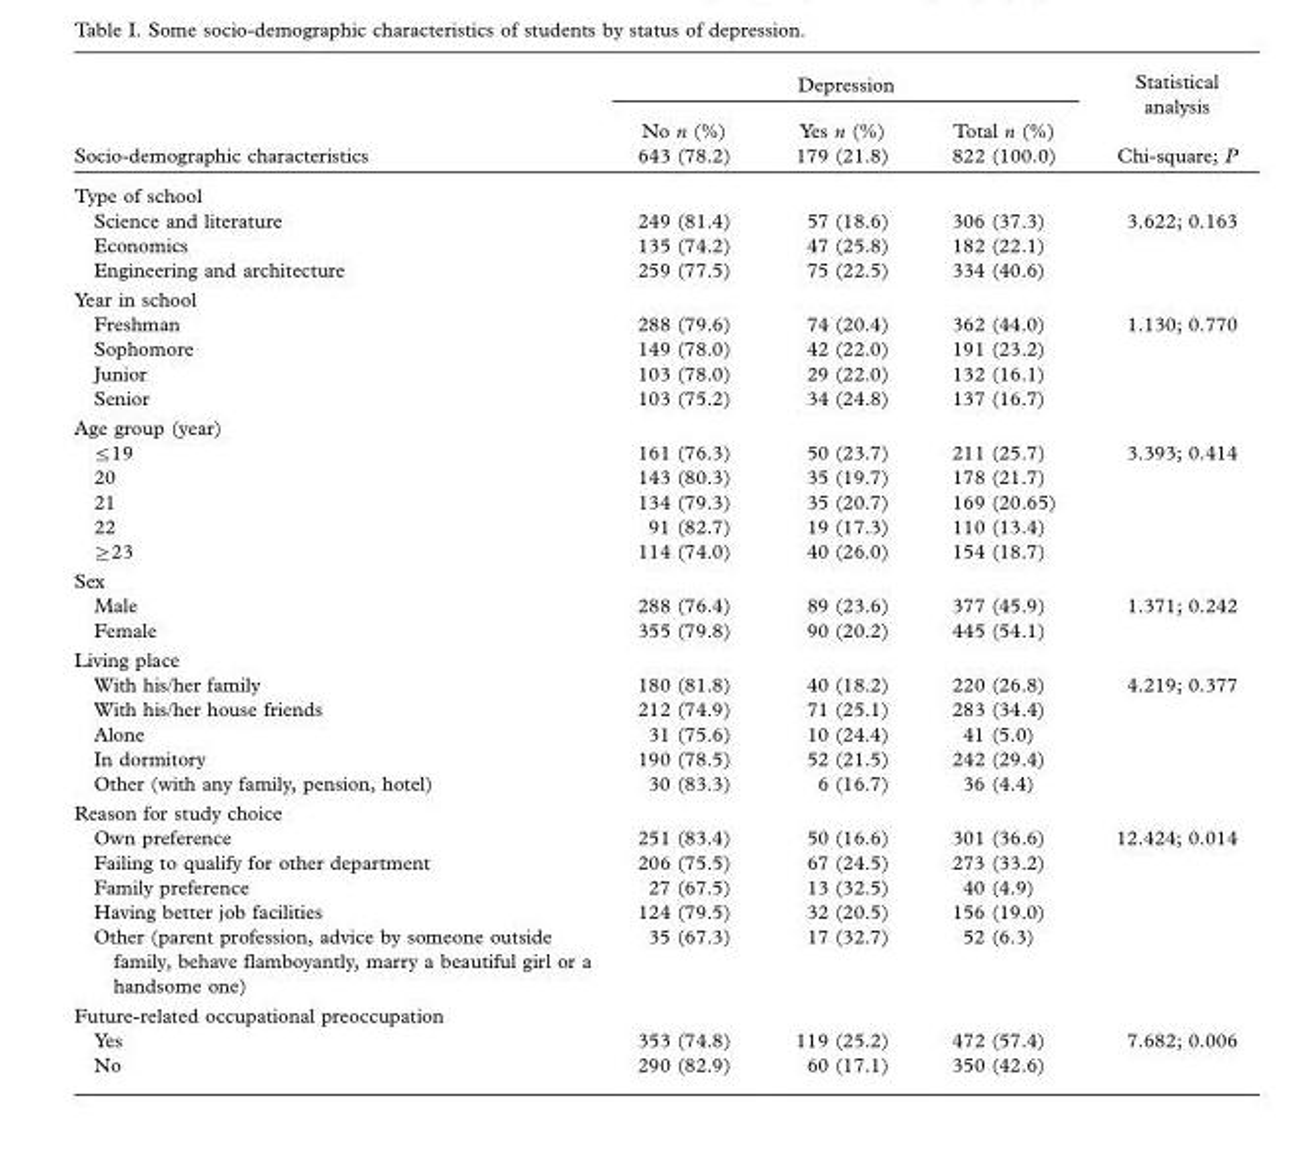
<table><thead><tr><td rowspan="2">Socio-demographic characteristics</td><td colspan="3">Depression</td><td rowspan="2">Statistical analysis Chi-square; P</td></tr><tr><td>No n (%) 643 (78.2)</td><td>Yes n (%) 179 (21.8)</td><td>Total n (%) 822 (100.0)</td></tr></thead><tbody><tr><td colspan="5">Type of school</td></tr><tr><td>Science and literature</td><td>249 (81.4)</td><td>57 (18.6)</td><td>306 (37.3)</td><td>3.622; 0.163</td></tr><tr><td>Economics</td><td>135 (74.2)</td><td>47 (25.8)</td><td>182 (22.1)</td><td></td></tr><tr><td>Engineering and architecture</td><td>259 (77.5)</td><td>75 (22.5)</td><td>334 (40.6)</td><td></td></tr><tr><td colspan="5">Year in school</td></tr><tr><td>Freshman</td><td>288 (79.6)</td><td>74 (20.4)</td><td>362 (44.0)</td><td>1.130; 0.770</td></tr><tr><td>Sophomore</td><td>149 (78.0)</td><td>42 (22.0)</td><td>191 (23.2)</td><td></td></tr><tr><td>Junior</td><td>103 (78.0)</td><td>29 (22.0)</td><td>132 (16.1)</td><td></td></tr><tr><td>Senior</td><td>103 (75.2)</td><td>34 (24.8)</td><td>137 (16.7)</td><td></td></tr><tr><td colspan="5">Age group (year)</td></tr><tr><td>≤19</td><td>161 (76.3)</td><td>50 (23.7)</td><td>211 (25.7)</td><td>3.393; 0.414</td></tr><tr><td>20</td><td>143 (80.3)</td><td>35 (19.7)</td><td>178 (21.7)</td><td></td></tr><tr><td>21</td><td>134 (79.3)</td><td>35 (20.7)</td><td>169 (20.65)</td><td></td></tr><tr><td>22</td><td>91 (82.7)</td><td>19 (17.3)</td><td>110 (13.4)</td><td></td></tr><tr><td>≥23</td><td>114 (74.0)</td><td>40 (26.0)</td><td>154 (18.7)</td><td></td></tr><tr><td colspan="5">Sex</td></tr><tr><td>Male</td><td>288 (76.4)</td><td>89 (23.6)</td><td>377 (45.9)</td><td>1.371; 0.242</td></tr><tr><td>Female</td><td>355 (79.8)</td><td>90 (20.2)</td><td>445 (54.1)</td><td></td></tr><tr><td colspan="5">Living place</td></tr><tr><td>With his/her family</td><td>180 (81.8)</td><td>40 (18.2)</td><td>220 (26.8)</td><td>4.219; 0.377</td></tr><tr><td>With his/her house friends</td><td>212 (74.9)</td><td>71 (25.1)</td><td>283 (34.4)</td><td></td></tr><tr><td>Alone</td><td>31 (75.6)</td><td>10 (24.4)</td><td>41 (5.0)</td><td></td></tr><tr><td>In dormitory</td><td>190 (78.5)</td><td>52 (21.5)</td><td>242 (29.4)</td><td></td></tr><tr><td>Other (with any family, pension, hotel)</td><td>30 (83.3)</td><td>6 (16.7)</td><td>36 (4.4)</td><td></td></tr><tr><td colspan="5">Reason for study choice</td></tr><tr><td>Own preference</td><td>251 (83.4)</td><td>50 (16.6)</td><td>301 (36.6)</td><td>12.424; 0.014</td></tr><tr><td>Failing to qualify for other department</td><td>206 (75.5)</td><td>67 (24.5)</td><td>273 (33.2)</td><td></td></tr><tr><td>Family preference</td><td>27 (67.5)</td><td>13 (32.5)</td><td>40 (4.9)</td><td></td></tr><tr><td>Having better job facilities</td><td>124 (79.5)</td><td>32 (20.5)</td><td>156 (19.0)</td><td></td></tr><tr><td>Other (parent profession, advice by someone outside family, behave flamboyantly, marry a beautiful girl or a handsome one)</td><td>35 (67.3)</td><td>17 (32.7)</td><td>52 (6.3)</td><td></td></tr><tr><td colspan="5">Future-related occupational preoccupation</td></tr><tr><td>Yes</td><td>353 (74.8)</td><td>119 (25.2)</td><td>472 (57.4)</td><td>7.682; 0.006</td></tr><tr><td>No</td><td>290 (82.9)</td><td>60 (17.1)</td><td>350 (42.6)</td><td></td></tr></tbody></table>